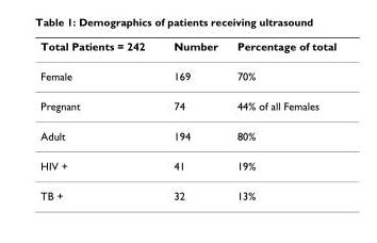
<table><thead><tr><td>Total Patients = 242</td><td>Number</td><td>Percentage of total</td></tr></thead><tbody><tr><td>Female</td><td>169</td><td>70%</td></tr><tr><td>Pregnant</td><td>74</td><td>44% of all Females</td></tr><tr><td>Adult</td><td>194</td><td>80%</td></tr><tr><td>HIV +</td><td>41</td><td>19%</td></tr><tr><td>TB +</td><td>32</td><td>13%</td></tr></tbody></table>